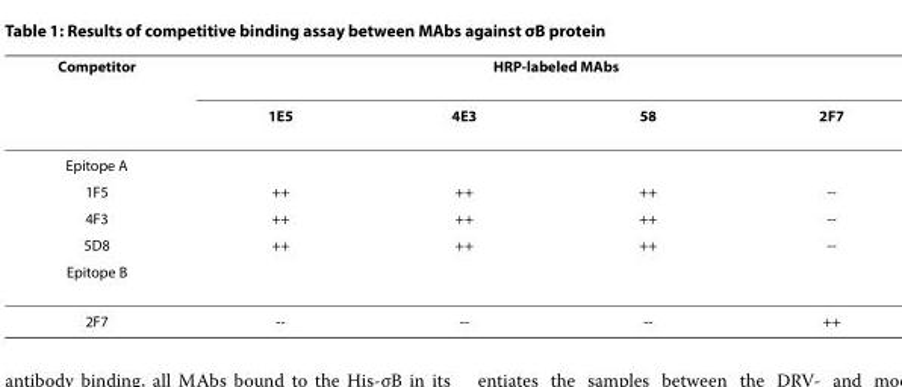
<table><thead><tr><td rowspan="2">Competitor</td><td colspan="4">HRP-labeled MAbs</td></tr><tr><td>1E5</td><td>4E3</td><td>58</td><td>2F7</td></tr></thead><tbody><tr><td colspan="5">Epitope A</td></tr><tr><td>1F5</td><td>++</td><td>++</td><td>++</td><td>--</td></tr><tr><td>4F3</td><td>++</td><td>++</td><td>++</td><td>--</td></tr><tr><td>5D8</td><td>++</td><td>++</td><td>++</td><td>--</td></tr><tr><td colspan="5">Epitope B</td></tr><tr><td>2F7</td><td>--</td><td>--</td><td>--</td><td>++</td></tr></tbody></table>